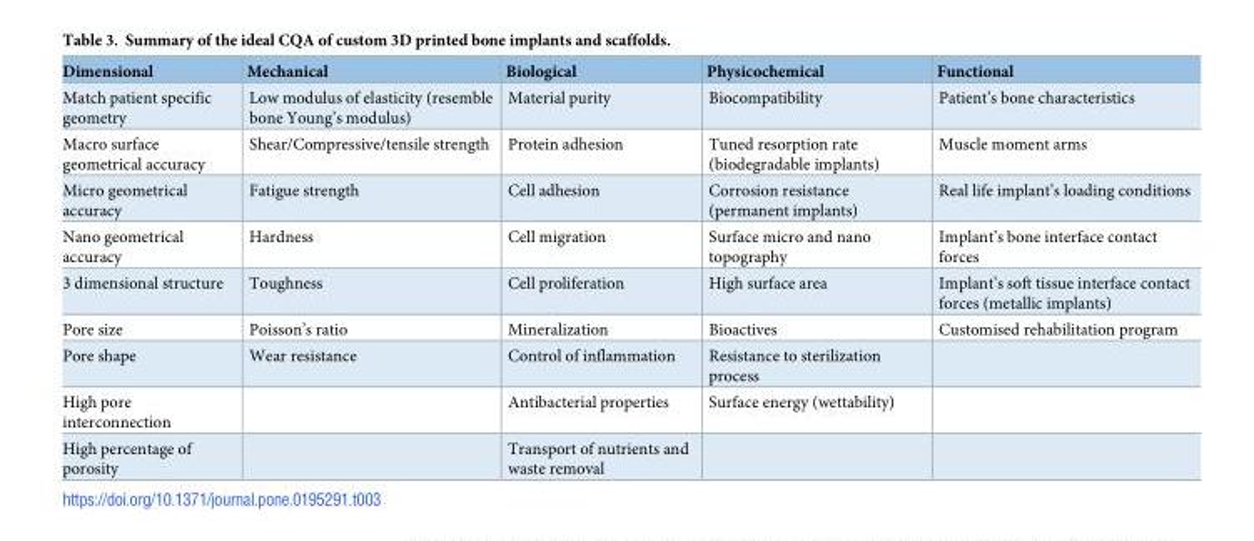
<table><thead><tr><td>Dimensional</td><td>Mechanical</td><td>Biological</td><td>Physicochemical</td><td>Functional</td></tr></thead><tbody><tr><td>Match patient specific geometry</td><td>Low modulus of elasticity (resemble bone Young’s modulus)</td><td>Material purity</td><td>Biocompatibility</td><td>Patient’s bone characteristics</td></tr><tr><td>Macro surface geometrical accuracy</td><td>Shear/Compressive/tensile strength</td><td>Protein adhesion</td><td>Tuned resorption rate (biodegradable implants)</td><td>Muscle moment arms</td></tr><tr><td>Micro geometrical accuracy</td><td>Fatigue strength</td><td>Cell adhesion</td><td>Corrosion resistance (permanent implants)</td><td>Real life implant’s loading conditions</td></tr><tr><td>Nano geometrical accuracy</td><td>Hardness</td><td>Cell migration</td><td>Surface micro and nano topography</td><td>Implant’s bone interface contact forces</td></tr><tr><td>3 dimensional structure</td><td>Toughness</td><td>Cell proliferation</td><td>High surface area</td><td>Implant’s soft tissue interface contact forces (metallic implants)</td></tr><tr><td>Pore size</td><td>Poisson’s ratio</td><td>Mineralization</td><td>Bioactives</td><td>Customised rehabilitation program</td></tr><tr><td>Pore shape</td><td>Wear resistance</td><td>Control of inflammation</td><td>Resistance to sterilization process</td><td></td></tr><tr><td>High pore interconnection</td><td></td><td>Antibacterial properties</td><td>Surface energy (wettability)</td><td></td></tr><tr><td>High percentage of porosity</td><td></td><td>Transport of nutrients and waste removal</td><td></td><td></td></tr></tbody></table>